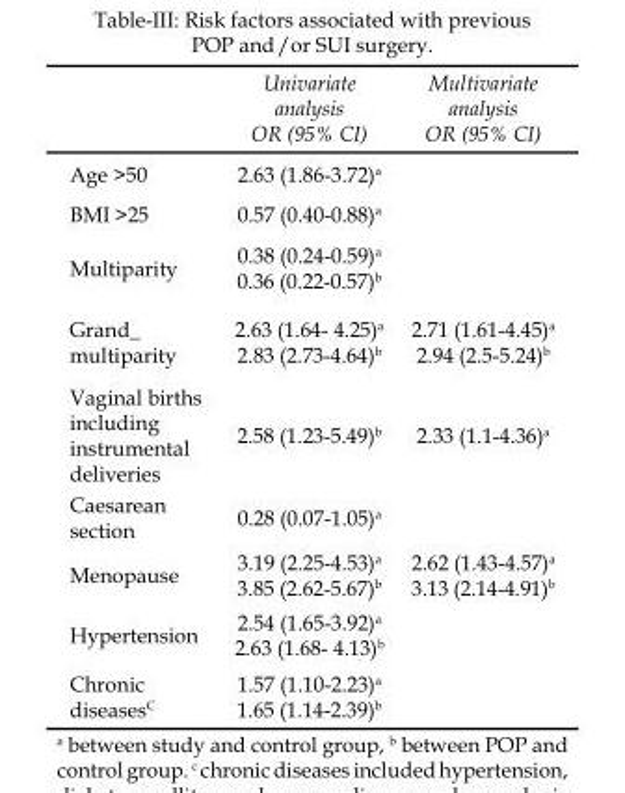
<table><thead><tr><td></td><td>Univariate analysis OR (95% CI)</td><td>Multivariate analysis OR (95% CI)</td></tr></thead><tbody><tr><td>Age &gt;50</td><td>2.63 (1.86-3.72)<sup>a</sup></td><td></td></tr><tr><td>BMI &gt;25</td><td>0.57 (0.40-0.88)<sup>a</sup></td><td></td></tr><tr><td>Multiparity</td><td>0.38 (0.24-0.59)<sup>a</sup> 0.36 (0.22-0.57)<sup>b</sup></td><td></td></tr><tr><td>Grand_ multiparity</td><td>2.63 (1.64- 4.25)<sup>a</sup> 2.83 (2.73-4.64)<sup>b</sup></td><td>2.71 (1.61-4.45)<sup>a</sup> 2.94 (2.5-5.24)<sup>b</sup></td></tr><tr><td>Vaginal births including instrumental deliveries</td><td>2.58 (1.23-5.49)<sup>b</sup></td><td>2.33 (1.1-4.36)<sup>a</sup></td></tr><tr><td>Caesarean section</td><td>0.28 (0.07-1.05)<sup>a</sup></td><td></td></tr><tr><td>Menopause</td><td>3.19 (2.25-4.53)<sup>a</sup> 3.85 (2.62-5.67)<sup>b</sup></td><td>2.62 (1.43-4.57)<sup>a</sup> 3.13 (2.14-4.91)<sup>b</sup></td></tr><tr><td>Hypertension</td><td>2.54 (1.65-3.92)<sup>a</sup> 2.63 (1.68- 4.13)<sup>b</sup></td><td></td></tr><tr><td>Chronic diseases<sup>C</sup></td><td>1.57 (1.10-2.23)<sup>a</sup> 1.65 (1.14-2.39)<sup>b</sup></td><td></td></tr></tbody></table>